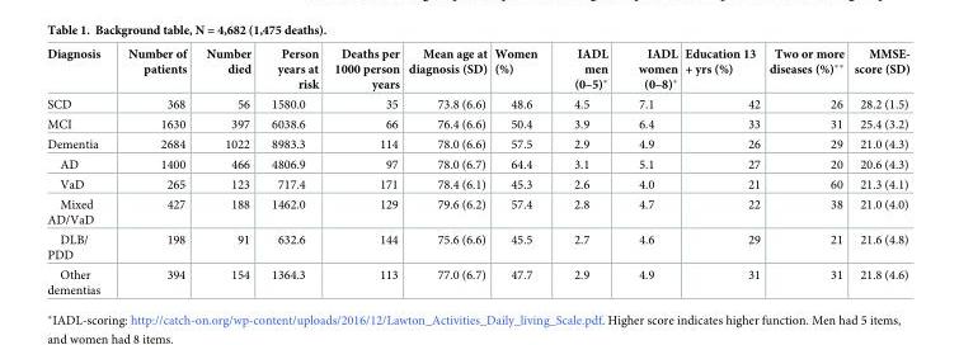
<table><thead><tr><td>Diagnosis</td><td>Number of patients</td><td>Number died</td><td>Person years at risk</td><td>Deaths per 1000 person years</td><td>Mean age at diagnosis (SD)</td><td>Women (%)</td><td>IADL men (0–5)*</td><td>IADL women (0–8)*</td><td>Education 13 + yrs (%)</td><td>Two or more diseases (%)**</td><td>MMSE- score (SD)</td></tr></thead><tbody><tr><td>SCD</td><td>368</td><td>56</td><td>1580.0</td><td>35</td><td>73.8 (6.6)</td><td>48.6</td><td>4.5</td><td>7.1</td><td>42</td><td>26</td><td>28.2 (1.5)</td></tr><tr><td>MCI</td><td>1630</td><td>397</td><td>6038.6</td><td>66</td><td>76.4 (6.6)</td><td>50.4</td><td>3.9</td><td>6.4</td><td>33</td><td>31</td><td>25.4 (3.2)</td></tr><tr><td>Dementia</td><td>2684</td><td>1022</td><td>8983.3</td><td>114</td><td>78.0 (6.6)</td><td>57.5</td><td>2.9</td><td>4.9</td><td>26</td><td>29</td><td>21.0 (4.3)</td></tr><tr><td>AD</td><td>1400</td><td>466</td><td>4806.9</td><td>97</td><td>78.0 (6.7)</td><td>64.4</td><td>3.1</td><td>5.1</td><td>27</td><td>20</td><td>20.6 (4.3)</td></tr><tr><td>VaD</td><td>265</td><td>123</td><td>717.4</td><td>171</td><td>78.4 (6.1)</td><td>45.3</td><td>2.6</td><td>4.0</td><td>21</td><td>60</td><td>21.3 (4.1)</td></tr><tr><td>Mixed AD/VaD</td><td>427</td><td>188</td><td>1462.0</td><td>129</td><td>79.6 (6.2)</td><td>57.4</td><td>2.8</td><td>4.7</td><td>22</td><td>38</td><td>21.0 (4.0)</td></tr><tr><td>DLB/ PDD</td><td>198</td><td>91</td><td>632.6</td><td>144</td><td>75.6 (6.6)</td><td>45.5</td><td>2.7</td><td>4.6</td><td>29</td><td>21</td><td>21.6 (4.8)</td></tr><tr><td>Other dementias</td><td>394</td><td>154</td><td>1364.3</td><td>113</td><td>77.0 (6.7)</td><td>47.7</td><td>2.9</td><td>4.9</td><td>31</td><td>31</td><td>21.8 (4.6)</td></tr></tbody></table>